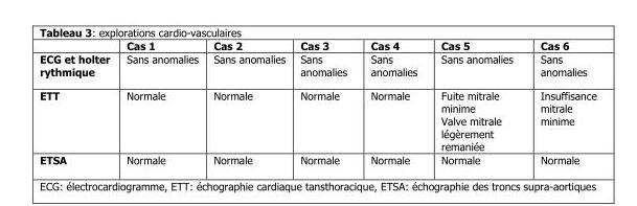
<table><thead><tr><td></td><td>Cas 1</td><td>Cas 2</td><td>Cas 3</td><td>Cas 4</td><td>Cas 5</td><td>Cas 6</td></tr></thead><tbody><tr><td>ECG et holter rythmique</td><td>Sans anomalies</td><td>Sans anomalies</td><td>Sans anomalies</td><td>Sans anomalies</td><td>Sans anomalies</td><td>Sans anomalies</td></tr><tr><td>ETT</td><td>Normale</td><td>Normale</td><td>Normale</td><td>Normale</td><td>Fuite mitrale minime Valve mitrale légèrement remaniée</td><td>Insuffisance mitrale minime</td></tr><tr><td>ETSA</td><td>Normale</td><td>Normale</td><td>Normale</td><td>Normale</td><td>Normale</td><td>Normale</td></tr></tbody></table>